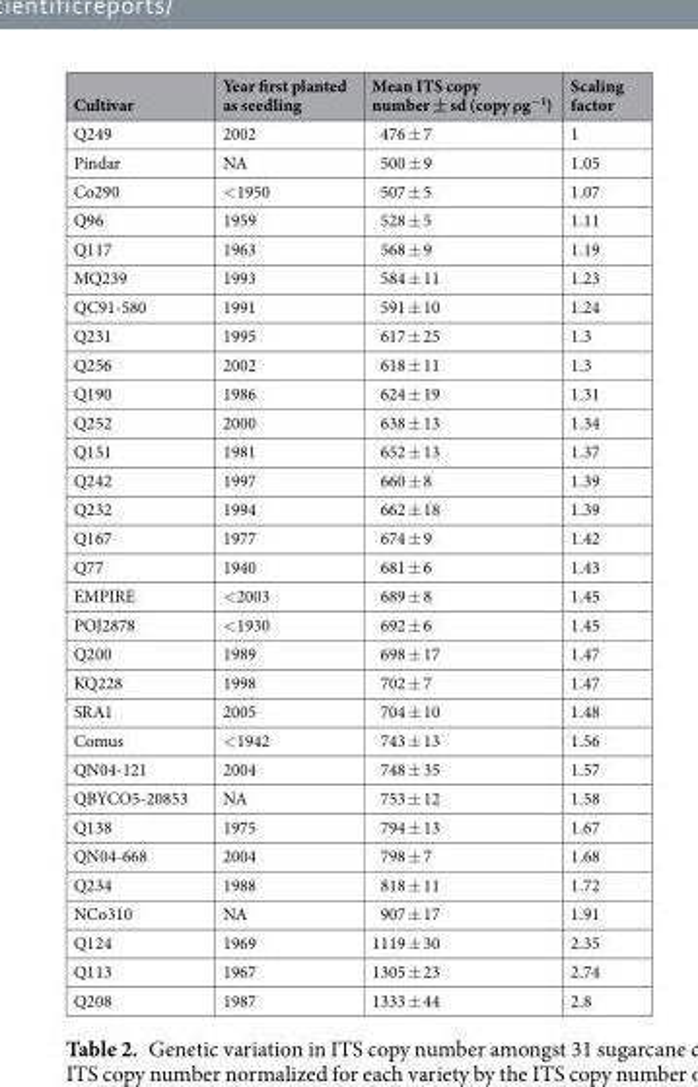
<table><thead><tr><td>Cultivar</td><td>Year first planted as seedling</td><td>Mean ITS copy number ± sd (copy ρg<sup>−1</sup>)</td><td>Scaling factor</td></tr></thead><tbody><tr><td>Q249</td><td>2002</td><td>476 ± 7</td><td>1</td></tr><tr><td>Pindar</td><td>NA</td><td>500 ± 9</td><td>1.05</td></tr><tr><td>Co290</td><td>&lt;1950</td><td>507 ± 5</td><td>1.07</td></tr><tr><td>Q96</td><td>1959</td><td>528 ± 5</td><td>1.11</td></tr><tr><td>Q117</td><td>1963</td><td>568 ± 9</td><td>1.19</td></tr><tr><td>MQ239</td><td>1993</td><td>584 ± 11</td><td>1.23</td></tr><tr><td>QC91-580</td><td>1991</td><td>591 ± 10</td><td>1.24</td></tr><tr><td>Q231</td><td>1995</td><td>617 ± 25</td><td>1.3</td></tr><tr><td>Q256</td><td>2002</td><td>618 ± 11</td><td>1.3</td></tr><tr><td>Q190</td><td>1986</td><td>624 ± 19</td><td>1.31</td></tr><tr><td>Q252</td><td>2000</td><td>638 ± 13</td><td>1.34</td></tr><tr><td>Q151</td><td>1981</td><td>652 ± 13</td><td>1.37</td></tr><tr><td>Q242</td><td>1997</td><td>660 ± 8</td><td>1.39</td></tr><tr><td>Q232</td><td>1994</td><td>662 ± 18</td><td>1.39</td></tr><tr><td>Q167</td><td>1977</td><td>674 ± 9</td><td>1.42</td></tr><tr><td>Q77</td><td>1940</td><td>681 ± 6</td><td>1.43</td></tr><tr><td>EMPIRE</td><td>&lt;2003</td><td>689 ± 8</td><td>1.45</td></tr><tr><td>POJ2878</td><td>&lt;1930</td><td>692 ± 6</td><td>1.45</td></tr><tr><td>Q200</td><td>1989</td><td>698 ± 17</td><td>1.47</td></tr><tr><td>KQ228</td><td>1998</td><td>702 ± 7</td><td>1.47</td></tr><tr><td>SRA1</td><td>2005</td><td>704 ± 10</td><td>1.48</td></tr><tr><td>Comus</td><td>&lt;1942</td><td>743 ± 13</td><td>1.56</td></tr><tr><td>QN04-121</td><td>2004</td><td>748 ± 35</td><td>1.57</td></tr><tr><td>QBYCO5-20853</td><td>NA</td><td>753 ± 12</td><td>1.58</td></tr><tr><td>Q138</td><td>1975</td><td>794 ± 13</td><td>1.67</td></tr><tr><td>QN04-668</td><td>2004</td><td>798 ± 7</td><td>1.68</td></tr><tr><td>Q234</td><td>1988</td><td>818 ± 11</td><td>1.72</td></tr><tr><td>NCo310</td><td>NA</td><td>907 ± 17</td><td>1.91</td></tr><tr><td>Q124</td><td>1969</td><td>1119 ± 30</td><td>2.35</td></tr><tr><td>Q113</td><td>1967</td><td>1305 ± 23</td><td>2.74</td></tr><tr><td>Q208</td><td>1987</td><td>1333 ± 44</td><td>2.8</td></tr></tbody></table>